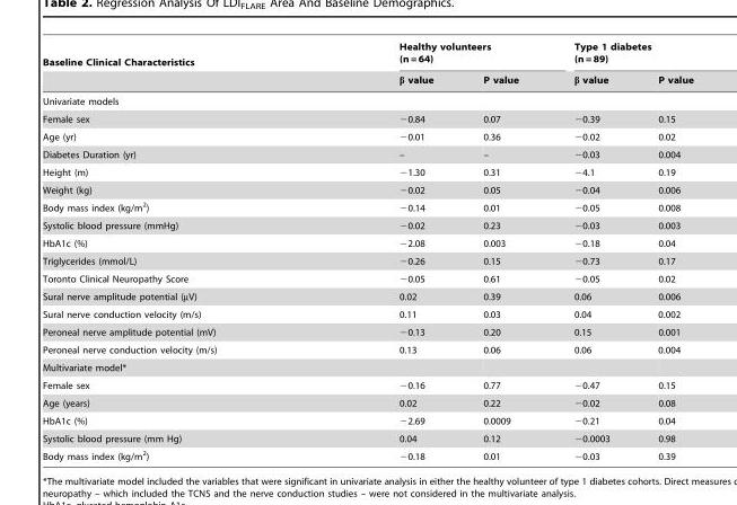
<table><thead><tr><td rowspan="2">Baseline Clinical Characteristics</td><td colspan="2">Healthy volunteers (n = 64)</td><td colspan="2">Type 1 diabetes (n = 89)</td></tr><tr><td>β value</td><td>P value</td><td>β value</td><td>P value</td></tr></thead><tbody><tr><td colspan="5">Univariate models</td></tr><tr><td>Female sex</td><td>−0.84</td><td>0.07</td><td>−0.39</td><td>0.15</td></tr><tr><td>Age (yr)</td><td>−0.01</td><td>0.36</td><td>−0.02</td><td>0.02</td></tr><tr><td>Diabetes Duration (yr)</td><td>–</td><td>–</td><td>−0.03</td><td>0.004</td></tr><tr><td>Height (m)</td><td>−1.30</td><td>0.31</td><td>−4.1</td><td>0.19</td></tr><tr><td>Weight (kg)</td><td>−0.02</td><td>0.05</td><td>−0.04</td><td>0.006</td></tr><tr><td>Body mass index (kg/m<sup>2</sup>)</td><td>−0.14</td><td>0.01</td><td>−0.05</td><td>0.008</td></tr><tr><td>Systolic blood pressure (mmHg)</td><td>−0.02</td><td>0.23</td><td>−0.03</td><td>0.003</td></tr><tr><td>HbA1c (%)</td><td>−2.08</td><td>0.003</td><td>−0.18</td><td>0.04</td></tr><tr><td>Triglycerides (mmol/L)</td><td>−0.26</td><td>0.15</td><td>−0.73</td><td>0.17</td></tr><tr><td>Toronto Clinical Neuropathy Score</td><td>−0.05</td><td>0.61</td><td>−0.05</td><td>0.02</td></tr><tr><td>Sural nerve amplitude potential (µV)</td><td>0.02</td><td>0.39</td><td>0.06</td><td>0.006</td></tr><tr><td>Sural nerve conduction velocity (m/s)</td><td>0.11</td><td>0.03</td><td>0.04</td><td>0.002</td></tr><tr><td>Peroneal nerve amplitude potential (mV)</td><td>−0.13</td><td>0.20</td><td>0.15</td><td>0.001</td></tr><tr><td>Peroneal nerve conduction velocity (m/s)</td><td>0.13</td><td>0.06</td><td>0.06</td><td>0.004</td></tr><tr><td colspan="5">Multivariate model*</td></tr><tr><td>Female sex</td><td>−0.16</td><td>0.77</td><td>−0.47</td><td>0.15</td></tr><tr><td>Age (years)</td><td>0.02</td><td>0.22</td><td>−0.02</td><td>0.08</td></tr><tr><td>HbA1c (%)</td><td>−2.69</td><td>0.0009</td><td>−0.21</td><td>0.04</td></tr><tr><td>Systolic blood pressure (mm Hg)</td><td>0.04</td><td>0.12</td><td>−0.0003</td><td>0.98</td></tr><tr><td>Body mass index (kg/m<sup>2</sup>)</td><td>−0.18</td><td>0.01</td><td>−0.03</td><td>0.39</td></tr></tbody></table>